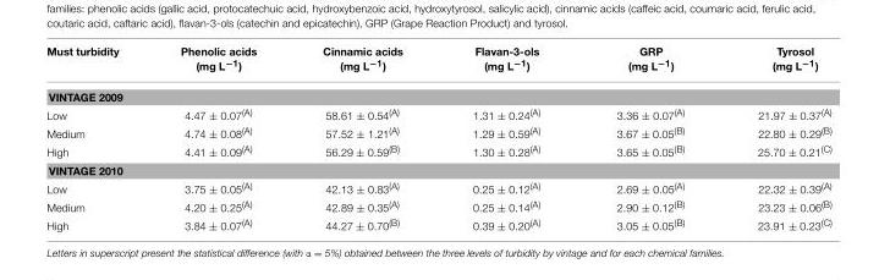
<table><thead><tr><td>Must turbidity</td><td>Phenolic acids (mg L<sup>−1</sup>)</td><td>Cinnamic acids (mg L<sup>−1</sup>)</td><td>Flavan-3-ols (mg L<sup>−1</sup>)</td><td>GRP (mg L<sup>−1</sup>)</td><td>Tyrosol (mg L<sup>−1</sup>)</td></tr></thead><tbody><tr><td colspan="6">VINTAGE 2009</td></tr><tr><td>Low</td><td>4.47 ± 0.07<sup>(A)</sup></td><td>58.61 ± 0.54<sup>(A)</sup></td><td>1.31 ± 0.24<sup>(A)</sup></td><td>3.36 ± 0.07<sup>(A)</sup></td><td>21.97 ± 0.37<sup>(A)</sup></td></tr><tr><td>Medium</td><td>4.74 ± 0.08<sup>(A)</sup></td><td>57.52 ± 1.21<sup>(A)</sup></td><td>1.29 ± 0.59<sup>(A)</sup></td><td>3.67 ± 0.05<sup>(B)</sup></td><td>22.80 ± 0.29<sup>(B)</sup></td></tr><tr><td>High</td><td>4.41 ± 0.09<sup>(A)</sup></td><td>56.29 ± 0.59<sup>(B)</sup></td><td>1.30 ± 0.28<sup>(A)</sup></td><td>3.65 ± 0.05<sup>(B)</sup></td><td>25.70 ± 0.21<sup>(C)</sup></td></tr><tr><td colspan="6">VINTAGE 2010</td></tr><tr><td>Low</td><td>3.75 ± 0.05<sup>(A)</sup></td><td>42.13 ± 0.83<sup>(A)</sup></td><td>0.25 ± 0.12<sup>(A)</sup></td><td>2.69 ± 0.05<sup>(A)</sup></td><td>22.32 ± 0.39<sup>(A)</sup></td></tr><tr><td>Medium</td><td>4.20 ± 0.25<sup>(A)</sup></td><td>42.89 ± 0.35<sup>(A)</sup></td><td>0.25 ± 0.14<sup>(A)</sup></td><td>2.90 ± 0.12<sup>(B)</sup></td><td>23.23 ± 0.06<sup>(B)</sup></td></tr><tr><td>High</td><td>3.84 ± 0.07<sup>(A)</sup></td><td>44.27 ± 0.70<sup>(B)</sup></td><td>0.39 ± 0.20<sup>(A)</sup></td><td>3.05 ± 0.05<sup>(B)</sup></td><td>23.91 ± 0.23<sup>(C)</sup></td></tr></tbody></table>